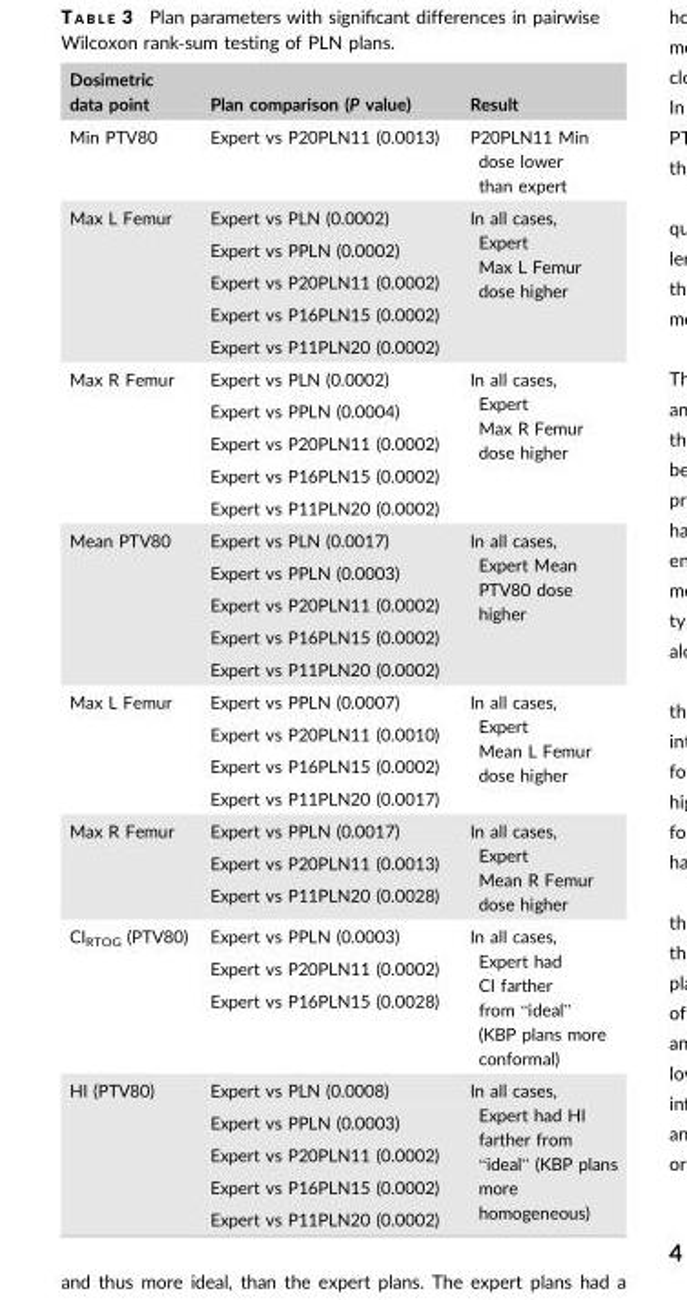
<table><thead><tr><td>Dosimetric data point</td><td>Plan comparison (P value)</td><td>Result</td></tr></thead><tbody><tr><td>Min PTV80</td><td>Expert vs P20PLN11 (0.0013)</td><td>P20PLN11 Min dose lower than expert</td></tr><tr><td rowspan="5">Max L Femur</td><td>Expert vs PLN (0.0002)</td><td rowspan="5">In all cases, Expert Max L Femur dose higher</td></tr><tr><td>Expert vs PPLN (0.0002)</td></tr><tr><td>Expert vs P20PLN11 (0.0002)</td></tr><tr><td>Expert vs P16PLN15 (0.0002)</td></tr><tr><td>Expert vs P11PLN20 (0.0002)</td></tr><tr><td rowspan="5">Max R Femur</td><td>Expert vs PLN (0.0002)</td><td rowspan="5">In all cases, Expert Max R Femur dose higher</td></tr><tr><td>Expert vs PPLN (0.0004)</td></tr><tr><td>Expert vs P20PLN11 (0.0002)</td></tr><tr><td>Expert vs P16PLN15 (0.0002)</td></tr><tr><td>Expert vs P11PLN20 (0.0002)</td></tr><tr><td rowspan="5">Mean PTV80</td><td>Expert vs PLN (0.0017)</td><td rowspan="5">In all cases, Expert Mean PTV80 dose higher</td></tr><tr><td>Expert vs PPLN (0.0003)</td></tr><tr><td>Expert vs P20PLN11 (0.0002)</td></tr><tr><td>Expert vs P16PLN15 (0.0002)</td></tr><tr><td>Expert vs P11PLN20 (0.0002)</td></tr><tr><td rowspan="4">Max L Femur</td><td>Expert vs PPLN (0.0007)</td><td rowspan="4">In all cases, Expert Mean L Femur dose higher</td></tr><tr><td>Expert vs P20PLN11 (0.0010)</td></tr><tr><td>Expert vs P16PLN15 (0.0002)</td></tr><tr><td>Expert vs P11PLN20 (0.0017)</td></tr><tr><td rowspan="3">Max R Femur</td><td>Expert vs PPLN (0.0017)</td><td rowspan="3">In all cases, Expert Mean R Femur dose higher</td></tr><tr><td>Expert vs P20PLN11 (0.0013)</td></tr><tr><td>Expert vs P11PLN20 (0.0028)</td></tr><tr><td rowspan="3">CI<sub>RTOG</sub> (PTV80)</td><td>Expert vs PPLN (0.0003)</td><td rowspan="3">In all cases, Expert had CI farther from “ideal” (KBP plans more conformal)</td></tr><tr><td>Expert vs P20PLN11 (0.0002)</td></tr><tr><td>Expert vs P16PLN15 (0.0028)</td></tr><tr><td rowspan="5">HI (PTV80)</td><td>Expert vs PLN (0.0008)</td><td rowspan="5">In all cases, Expert had HI farther from “ideal” (KBP plans more homogeneous)</td></tr><tr><td>Expert vs PPLN (0.0003)</td></tr><tr><td>Expert vs P20PLN11 (0.0002)</td></tr><tr><td>Expert vs P16PLN15 (0.0002)</td></tr><tr><td>Expert vs P11PLN20 (0.0002)</td></tr></tbody></table>